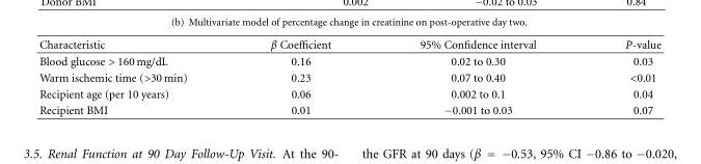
<table><thead><tr><td>Characteristic</td><td>β Coefficient</td><td>95% Confidence interval</td><td>P-value</td></tr></thead><tbody><tr><td>Blood glucose &gt; 160 mg/dL</td><td>0.16</td><td>0.02 to 0.30</td><td>0.03</td></tr><tr><td>Warm ischemic time (&gt;30 min)</td><td>0.23</td><td>0.07 to 0.40</td><td>&lt;0.01</td></tr><tr><td>Recipient age (per 10 years)</td><td>0.06</td><td>0.002 to 0.1</td><td>0.04</td></tr><tr><td>Recipient BMI</td><td>0.01</td><td>−0.001 to 0.03</td><td>0.07</td></tr></tbody></table>